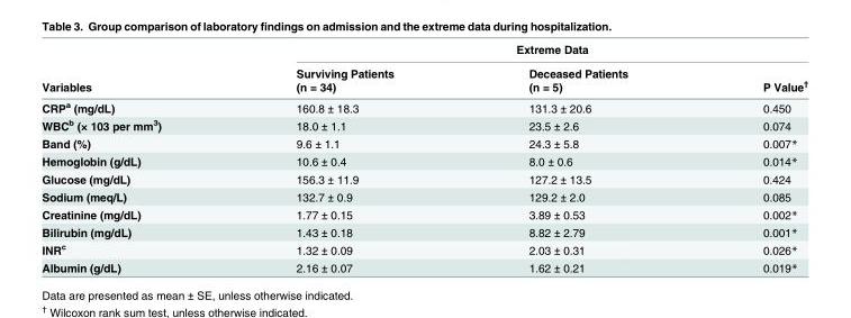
<table><thead><tr><td rowspan="3">Variables</td><td colspan="3">Extreme Data</td></tr><tr><td rowspan="2">Surviving Patients (n = 34)</td><td rowspan="2">Deceased Patients (n = 5)</td><td rowspan="2">P Value<sup>†</sup></td></tr><tr></tr></thead><tbody><tr><td>CRP<sup>a</sup> (mg/dL)</td><td>160.8 ± 18.3</td><td>131.3 ± 20.6</td><td>0.450</td></tr><tr><td>WBC<sup>b</sup> (× 103 per mm<sup>3</sup>)</td><td>18.0 ± 1.1</td><td>23.5 ± 2.6</td><td>0.074</td></tr><tr><td>Band (%)</td><td>9.6 ± 1.1</td><td>24.3 ± 5.8</td><td>0.007*</td></tr><tr><td>Hemoglobin (g/dL)</td><td>10.6 ± 0.4</td><td>8.0 ± 0.6</td><td>0.014*</td></tr><tr><td>Glucose (mg/dL)</td><td>156.3 ± 11.9</td><td>127.2 ± 13.5</td><td>0.424</td></tr><tr><td>Sodium (meq/L)</td><td>132.7 ± 0.9</td><td>129.2 ± 2.0</td><td>0.085</td></tr><tr><td>Creatinine (mg/dL)</td><td>1.77 ± 0.15</td><td>3.89 ± 0.53</td><td>0.002*</td></tr><tr><td>Bilirubin (mg/dL)</td><td>1.43 ± 0.18</td><td>8.82 ± 2.79</td><td>0.001*</td></tr><tr><td>INR<sup>c</sup></td><td>1.32 ± 0.09</td><td>2.03 ± 0.31</td><td>0.026*</td></tr><tr><td>Albumin (g/dL)</td><td>2.16 ± 0.07</td><td>1.62 ± 0.21</td><td>0.019*</td></tr></tbody></table>